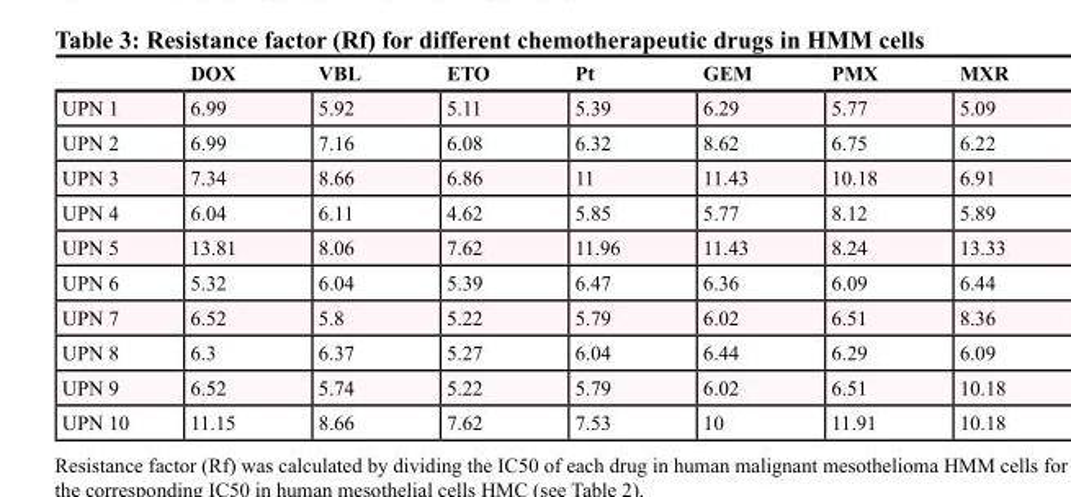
<table><thead><tr><td></td><td>DOX</td><td>VBL</td><td>ETO</td><td>Pt</td><td>GEM</td><td>PMX</td><td>MXR</td></tr></thead><tbody><tr><td>UPN 1</td><td>6.99</td><td>5.92</td><td>5.11</td><td>5.39</td><td>6.29</td><td>5.77</td><td>5.09</td></tr><tr><td>UPN 2</td><td>6.99</td><td>7.16</td><td>6.08</td><td>6.32</td><td>8.62</td><td>6.75</td><td>6.22</td></tr><tr><td>UPN 3</td><td>7.34</td><td>8.66</td><td>6.86</td><td>11</td><td>11.43</td><td>10.18</td><td>6.91</td></tr><tr><td>UPN 4</td><td>6.04</td><td>6.11</td><td>4.62</td><td>5.85</td><td>5.77</td><td>8.12</td><td>5.89</td></tr><tr><td>UPN 5</td><td>13.81</td><td>8.06</td><td>7.62</td><td>11.96</td><td>11.43</td><td>8.24</td><td>13.33</td></tr><tr><td>UPN 6</td><td>5.32</td><td>6.04</td><td>5.39</td><td>6.47</td><td>6.36</td><td>6.09</td><td>6.44</td></tr><tr><td>UPN 7</td><td>6.52</td><td>5.8</td><td>5.22</td><td>5.79</td><td>6.02</td><td>6.51</td><td>8.36</td></tr><tr><td>UPN 8</td><td>6.3</td><td>6.37</td><td>5.27</td><td>6.04</td><td>6.44</td><td>6.29</td><td>6.09</td></tr><tr><td>UPN 9</td><td>6.52</td><td>5.74</td><td>5.22</td><td>5.79</td><td>6.02</td><td>6.51</td><td>10.18</td></tr><tr><td>UPN 10</td><td>11.15</td><td>8.66</td><td>7.62</td><td>7.53</td><td>10</td><td>11.91</td><td>10.18</td></tr></tbody></table>